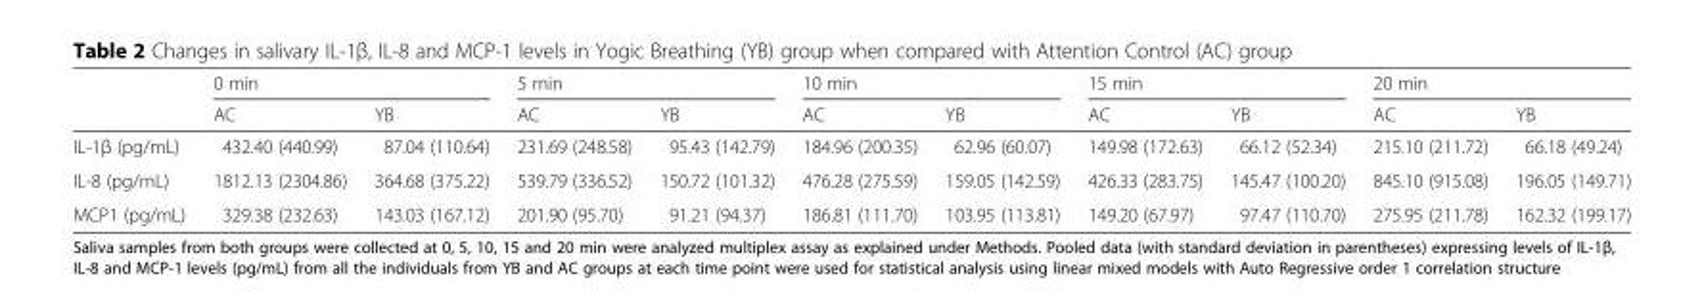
<table><thead><tr><td rowspan="2"></td><td colspan="2">0 min</td><td colspan="2">5 min</td><td colspan="2">10 min</td><td colspan="2">15 min</td><td colspan="2">20 min</td></tr><tr><td>AC</td><td>YB</td><td>AC</td><td>YB</td><td>AC</td><td>YB</td><td>AC</td><td>YB</td><td>AC</td><td>YB</td></tr></thead><tbody><tr><td>IL-1β (pg/mL)</td><td>432.40 (440.99)</td><td>87.04 (110.64)</td><td>231.69 (248.58)</td><td>95.43 (142.79)</td><td>184.96 (200.35)</td><td>62.96 (60.07)</td><td>149.98 (172.63)</td><td>66.12 (52.34)</td><td>215.10 (211.72)</td><td>66.18 (49.24)</td></tr><tr><td>IL-8 (pg/mL)</td><td>1812.13 (2304.86)</td><td>364.68 (375.22)</td><td>539.79 (336.52)</td><td>150.72 (101.32)</td><td>476.28 (275.59)</td><td>159.05 (142.59)</td><td>426.33 (283.75)</td><td>145.47 (100.20)</td><td>845.10 (915.08)</td><td>196.05 (149.71)</td></tr><tr><td>MCP1 (pg/mL)</td><td>329.38 (232.63)</td><td>143.03 (167.12)</td><td>201.90 (95.70)</td><td>91.21 (94.37)</td><td>186.81 (111.70)</td><td>103.95 (113.81)</td><td>149.20 (67.97)</td><td>97.47 (110.70)</td><td>275.95 (211.78)</td><td>162.32 (199.17)</td></tr></tbody></table>